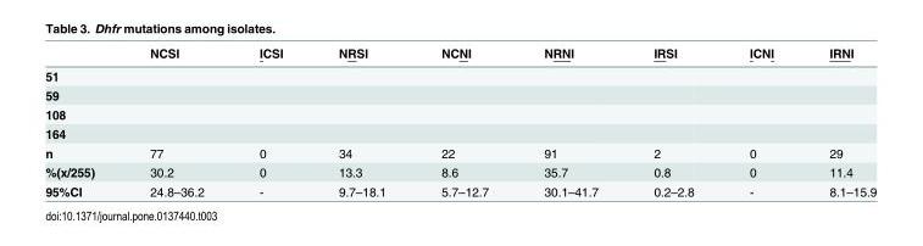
<table><thead><tr><td></td><td>NCSI</td><td>ICSI</td><td>NRSI</td><td>NCNI</td><td>NRNI</td><td>IRSI</td><td>ICNI</td><td>IRNI</td></tr></thead><tbody><tr><td colspan="9">51</td></tr><tr><td colspan="9">59</td></tr><tr><td colspan="9">108</td></tr><tr><td colspan="9">164</td></tr><tr><td>n</td><td>77</td><td>0</td><td>34</td><td>22</td><td>91</td><td>2</td><td>0</td><td>29</td></tr><tr><td>%(x/255)</td><td>30.2</td><td>0</td><td>13.3</td><td>8.6</td><td>35.7</td><td>0.8</td><td>0</td><td>11.4</td></tr><tr><td>95%CI</td><td>24.8–36.2</td><td>-</td><td>9.7–18.1</td><td>5.7–12.7</td><td>30.1–41.7</td><td>0.2–2.8</td><td>-</td><td>8.1–15.9</td></tr></tbody></table>